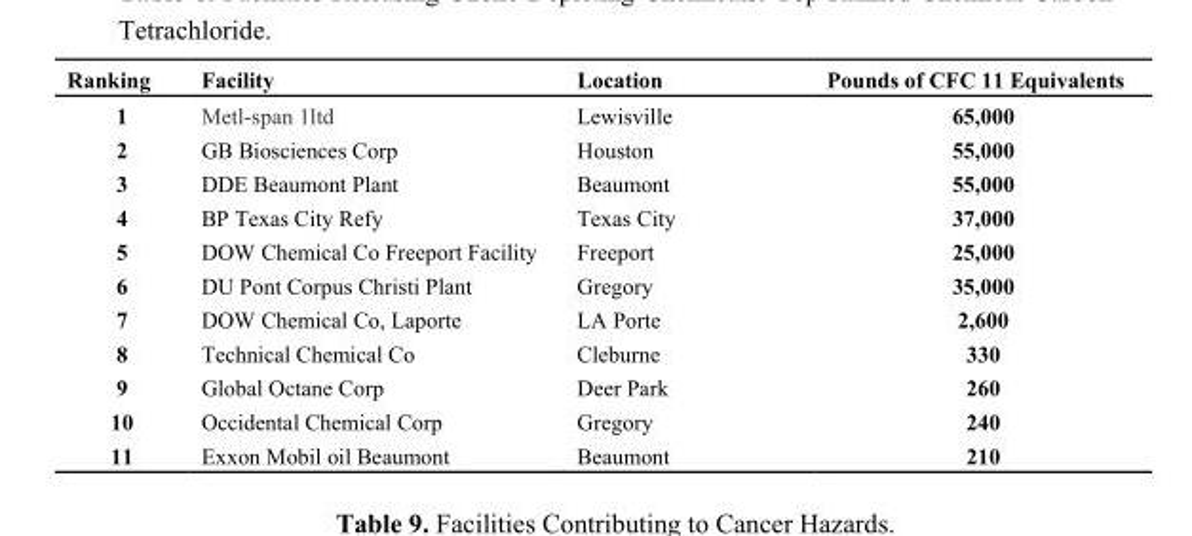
<table><thead><tr><td>Ranking</td><td>Facility</td><td>Location</td><td>Pounds of CFC 11 Equivalents</td></tr></thead><tbody><tr><td>1</td><td>Metl-span 1ltd</td><td>Lewisville</td><td>65,000</td></tr><tr><td>2</td><td>GB Biosciences Corp</td><td>Houston</td><td>55,000</td></tr><tr><td>3</td><td>DDE Beaumont Plant</td><td>Beaumont</td><td>55,000</td></tr><tr><td>4</td><td>BP Texas City Refy</td><td>Texas City</td><td>37,000</td></tr><tr><td>5</td><td>DOW Chemical Co Freeport Facility</td><td>Freeport</td><td>25,000</td></tr><tr><td>6</td><td>DU Pont Corpus Christi Plant</td><td>Gregory</td><td>35,000</td></tr><tr><td>7</td><td>DOW Chemical Co, Laporte</td><td>LA Porte</td><td>2,600</td></tr><tr><td>8</td><td>Technical Chemical Co</td><td>Cleburne</td><td>330</td></tr><tr><td>9</td><td>Global Octane Corp</td><td>Deer Park</td><td>260</td></tr><tr><td>10</td><td>Occidental Chemical Corp</td><td>Gregory</td><td>240</td></tr><tr><td>11</td><td>Exxon Mobil oil Beaumont</td><td>Beaumont</td><td>210</td></tr></tbody></table>